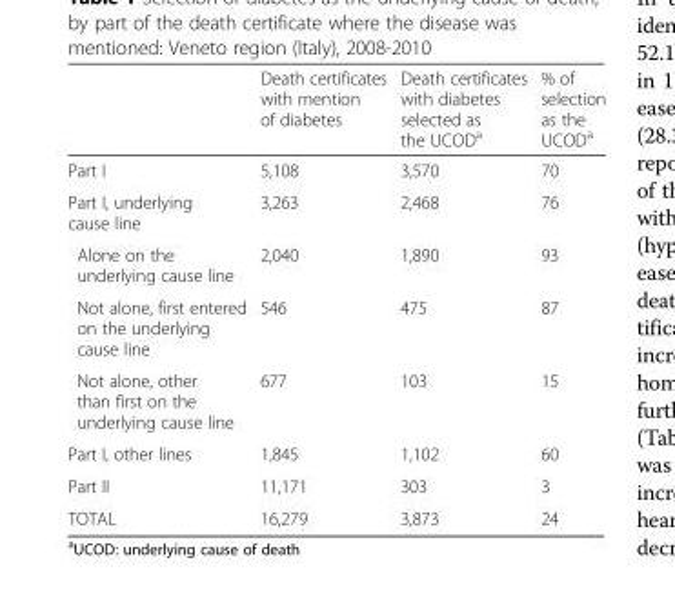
<table><thead><tr><td></td><td>Death certificates with mention of diabetes</td><td>Death certificates with diabetes selected as the UCOD<sup>a</sup></td><td>% of selection as the UCOD<sup>a</sup></td></tr></thead><tbody><tr><td>Part I</td><td>5,108</td><td>3,570</td><td>70</td></tr><tr><td>Part I, underlying cause line</td><td>3,263</td><td>2,468</td><td>76</td></tr><tr><td>Alone on the underlying cause line</td><td>2,040</td><td>1,890</td><td>93</td></tr><tr><td>Not alone, first entered on the underlying cause line</td><td>546</td><td>475</td><td>87</td></tr><tr><td>Not alone, other than first on the underlying cause line</td><td>677</td><td>103</td><td>15</td></tr><tr><td>Part I, other lines</td><td>1,845</td><td>1,102</td><td>60</td></tr><tr><td>Part II</td><td>11,171</td><td>303</td><td>3</td></tr><tr><td>TOTAL</td><td>16,279</td><td>3,873</td><td>24</td></tr></tbody></table>